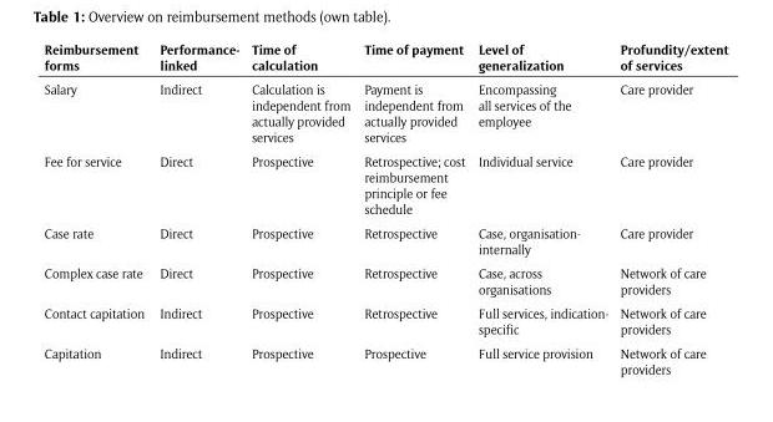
<table><thead><tr><td>Reimbursement forms</td><td>Performance- linked</td><td>Time of calculation</td><td>Time of payment</td><td>Level of generalization</td><td>Profundity/extent of services</td></tr></thead><tbody><tr><td>Salary</td><td>Indirect</td><td>Calculation is independent from actually provided services</td><td>Payment is independent from actually provided services</td><td>Encompassing all services of the employee</td><td>Care provider</td></tr><tr><td>Fee for service</td><td>Direct</td><td>Prospective</td><td>Retrospective; cost reimbursement principle or fee schedule</td><td>Individual service</td><td>Care provider</td></tr><tr><td>Case rate</td><td>Direct</td><td>Prospective</td><td>Retrospective</td><td>Case, organisation- internally</td><td>Care provider</td></tr><tr><td>Complex case rate</td><td>Direct</td><td>Prospective</td><td>Retrospective</td><td>Case, across organisations</td><td>Network of care providers</td></tr><tr><td>Contact capitation</td><td>Indirect</td><td>Prospective</td><td>Retrospective</td><td>Full services, indication- specific</td><td>Network of care providers</td></tr><tr><td>Capitation</td><td>Indirect</td><td>Prospective</td><td>Prospective</td><td>Full service provision</td><td>Network of care providers</td></tr></tbody></table>